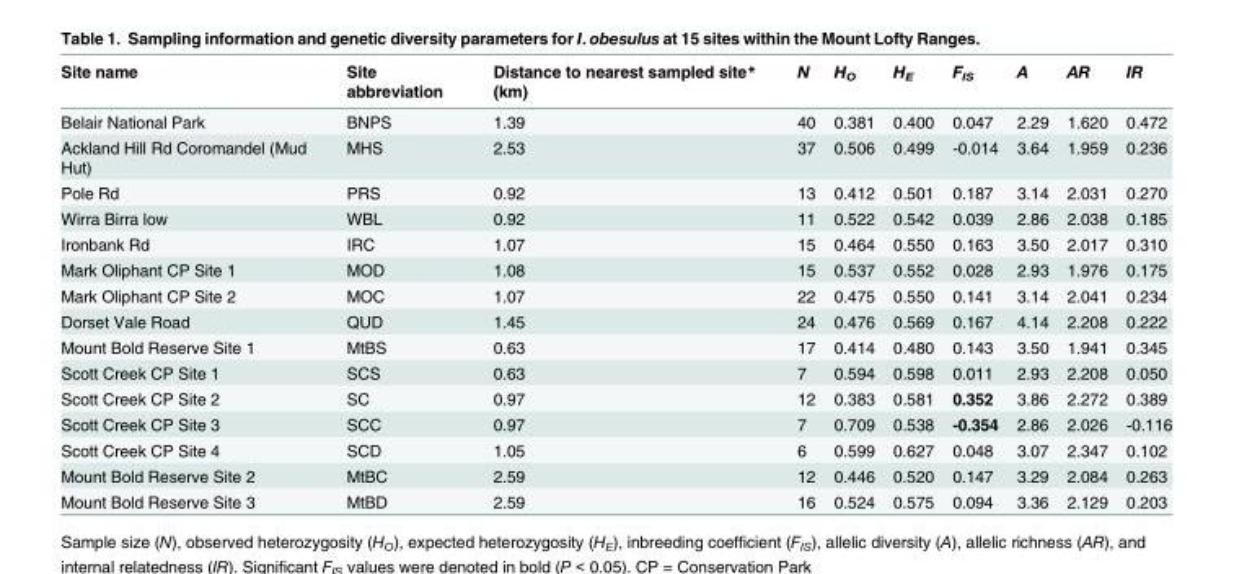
<table><thead><tr><td>Site name</td><td>Site abbreviation</td><td>Distance to nearest sampled site* (km)</td><td>N</td><td>H<sub>O</sub></td><td>H<sub>E</sub></td><td>F<sub>IS</sub></td><td>A</td><td>AR</td><td>IR</td></tr></thead><tbody><tr><td>Belair National Park</td><td>BNPS</td><td>1.39</td><td>40</td><td>0.381</td><td>0.400</td><td>0.047</td><td>2.29</td><td>1.620</td><td>0.472</td></tr><tr><td>Ackland Hill Rd Coromandel (Mud Hut)</td><td>MHS</td><td>2.53</td><td>37</td><td>0.506</td><td>0.499</td><td>-0.014</td><td>3.64</td><td>1.959</td><td>0.236</td></tr><tr><td>Pole Rd</td><td>PRS</td><td>0.92</td><td>13</td><td>0.412</td><td>0.501</td><td>0.187</td><td>3.14</td><td>2.031</td><td>0.270</td></tr><tr><td>Wirra Birra low</td><td>WBL</td><td>0.92</td><td>11</td><td>0.522</td><td>0.542</td><td>0.039</td><td>2.86</td><td>2.038</td><td>0.185</td></tr><tr><td>Ironbank Rd</td><td>IRC</td><td>1.07</td><td>15</td><td>0.464</td><td>0.550</td><td>0.163</td><td>3.50</td><td>2.017</td><td>0.310</td></tr><tr><td>Mark Oliphant CP Site 1</td><td>MOD</td><td>1.08</td><td>15</td><td>0.537</td><td>0.552</td><td>0.028</td><td>2.93</td><td>1.976</td><td>0.175</td></tr><tr><td>Mark Oliphant CP Site 2</td><td>MOC</td><td>1.07</td><td>22</td><td>0.475</td><td>0.550</td><td>0.141</td><td>3.14</td><td>2.041</td><td>0.234</td></tr><tr><td>Dorset Vale Road</td><td>QUD</td><td>1.45</td><td>24</td><td>0.476</td><td>0.569</td><td>0.167</td><td>4.14</td><td>2.208</td><td>0.222</td></tr><tr><td>Mount Bold Reserve Site 1</td><td>MtBS</td><td>0.63</td><td>17</td><td>0.414</td><td>0.480</td><td>0.143</td><td>3.50</td><td>1.941</td><td>0.345</td></tr><tr><td>Scott Creek CP Site 1</td><td>SCS</td><td>0.63</td><td>7</td><td>0.594</td><td>0.598</td><td>0.011</td><td>2.93</td><td>2.208</td><td>0.050</td></tr><tr><td>Scott Creek CP Site 2</td><td>SC</td><td>0.97</td><td>12</td><td>0.383</td><td>0.581</td><td>0.352</td><td>3.86</td><td>2.272</td><td>0.389</td></tr><tr><td>Scott Creek CP Site 3</td><td>SCC</td><td>0.97</td><td>7</td><td>0.709</td><td>0.538</td><td>-0.354</td><td>2.86</td><td>2.026</td><td>-0.116</td></tr><tr><td>Scott Creek CP Site 4</td><td>SCD</td><td>1.05</td><td>6</td><td>0.599</td><td>0.627</td><td>0.048</td><td>3.07</td><td>2.347</td><td>0.102</td></tr><tr><td>Mount Bold Reserve Site 2</td><td>MtBC</td><td>2.59</td><td>12</td><td>0.446</td><td>0.520</td><td>0.147</td><td>3.29</td><td>2.084</td><td>0.263</td></tr><tr><td>Mount Bold Reserve Site 3</td><td>MtBD</td><td>2.59</td><td>16</td><td>0.524</td><td>0.575</td><td>0.094</td><td>3.36</td><td>2.129</td><td>0.203</td></tr></tbody></table>